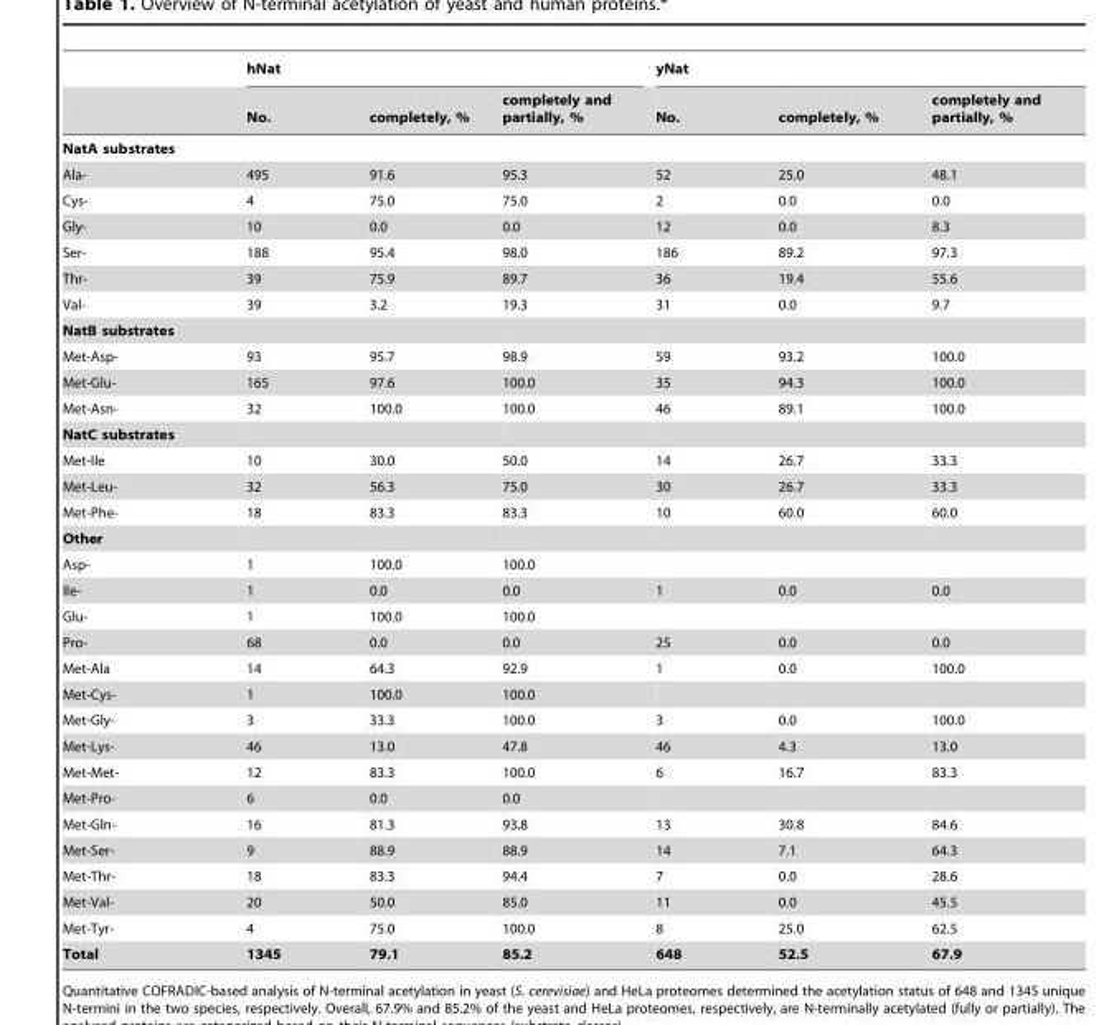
<table><thead><tr><td rowspan="2"></td><td colspan="3">hNat</td><td colspan="3">yNat</td></tr><tr><td>No.</td><td>completely, %</td><td>completely and partially, %</td><td>No.</td><td>completely, %</td><td>completely and partially, %</td></tr></thead><tbody><tr><td colspan="7">NatA substrates</td></tr><tr><td>Ala-</td><td>495</td><td>91.6</td><td>95.3</td><td>52</td><td>25.0</td><td>48.1</td></tr><tr><td>Cys-</td><td>4</td><td>75.0</td><td>75.0</td><td>2</td><td>0.0</td><td>0.0</td></tr><tr><td>Gly-</td><td>10</td><td>0.0</td><td>0.0</td><td>12</td><td>0.0</td><td>8.3</td></tr><tr><td>Ser-</td><td>188</td><td>95.4</td><td>98.0</td><td>186</td><td>89.2</td><td>97.3</td></tr><tr><td>Thr-</td><td>39</td><td>75.9</td><td>89.7</td><td>36</td><td>19.4</td><td>55.6</td></tr><tr><td>Val-</td><td>39</td><td>3.2</td><td>19.3</td><td>31</td><td>0.0</td><td>9.7</td></tr><tr><td colspan="7">NatB substrates</td></tr><tr><td>Met-Asp-</td><td>93</td><td>95.7</td><td>98.9</td><td>59</td><td>93.2</td><td>100.0</td></tr><tr><td>Met-Glu-</td><td>165</td><td>97.6</td><td>100.0</td><td>35</td><td>94.3</td><td>100.0</td></tr><tr><td>Met-Asn-</td><td>32</td><td>100.0</td><td>100.0</td><td>46</td><td>89.1</td><td>100.0</td></tr><tr><td colspan="7">NatC substrates</td></tr><tr><td>Met-Ile</td><td>10</td><td>30.0</td><td>50.0</td><td>14</td><td>26.7</td><td>33.3</td></tr><tr><td>Met-Leu-</td><td>32</td><td>56.3</td><td>75.0</td><td>30</td><td>26.7</td><td>33.3</td></tr><tr><td>Met-Phe-</td><td>18</td><td>83.3</td><td>83.3</td><td>10</td><td>60.0</td><td>60.0</td></tr><tr><td colspan="7">Other</td></tr><tr><td>Asp-</td><td>1</td><td>100.0</td><td>100.0</td><td></td><td></td><td></td></tr><tr><td>Ile-</td><td>1</td><td>0.0</td><td>0.0</td><td>1</td><td>0.0</td><td>0.0</td></tr><tr><td>Glu-</td><td>1</td><td>100.0</td><td>100.0</td><td></td><td></td><td></td></tr><tr><td>Pro-</td><td>68</td><td>0.0</td><td>0.0</td><td>25</td><td>0.0</td><td>0.0</td></tr><tr><td>Met-Ala</td><td>14</td><td>64.3</td><td>92.9</td><td>1</td><td>0.0</td><td>100.0</td></tr><tr><td>Met-Cys-</td><td>1</td><td>100.0</td><td>100.0</td><td></td><td></td><td></td></tr><tr><td>Met-Gly-</td><td>3</td><td>33.3</td><td>100.0</td><td>3</td><td>0.0</td><td>100.0</td></tr><tr><td>Met-Lys-</td><td>46</td><td>13.0</td><td>47.8</td><td>46</td><td>4.3</td><td>13.0</td></tr><tr><td>Met-Met-</td><td>12</td><td>83.3</td><td>100.0</td><td>6</td><td>16.7</td><td>83.3</td></tr><tr><td>Met-Pro-</td><td>6</td><td>0.0</td><td>0.0</td><td></td><td></td><td></td></tr><tr><td>Met-Gln-</td><td>16</td><td>81.3</td><td>93.8</td><td>13</td><td>30.8</td><td>84.6</td></tr><tr><td>Met-Ser-</td><td>9</td><td>88.9</td><td>88.9</td><td>14</td><td>7.1</td><td>64.3</td></tr><tr><td>Met-Thr-</td><td>18</td><td>83.3</td><td>94.4</td><td>7</td><td>0.0</td><td>28.6</td></tr><tr><td>Met-Val-</td><td>20</td><td>50.0</td><td>85.0</td><td>11</td><td>0.0</td><td>45.5</td></tr><tr><td>Met-Tyr-</td><td>4</td><td>75.0</td><td>100.0</td><td>8</td><td>25.0</td><td>62.5</td></tr><tr><td>Total</td><td>1345</td><td>79.1</td><td>85.2</td><td>648</td><td>52.5</td><td>67.9</td></tr></tbody></table>